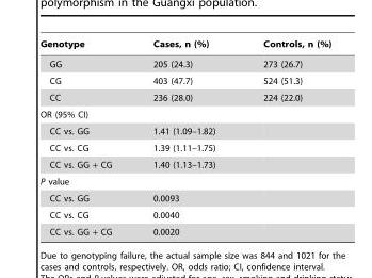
<table><thead><tr><td>Genotype</td><td>Cases, n (%)</td><td>Controls, n (%)</td></tr></thead><tbody><tr><td>GG</td><td>205 (24.3)</td><td>273 (26.7)</td></tr><tr><td>CG</td><td>403 (47.7)</td><td>524 (51.3)</td></tr><tr><td>CC</td><td>236 (28.0)</td><td>224 (22.0)</td></tr><tr><td colspan="3">OR (95% CI)</td></tr><tr><td>CC vs. GG</td><td>1.41 (1.09–1.82)</td><td></td></tr><tr><td>CC vs. CG</td><td>1.39 (1.11–1.75)</td><td></td></tr><tr><td>CC vs. GG + CG</td><td>1.40 (1.13–1.73)</td><td></td></tr><tr><td colspan="3">P value</td></tr><tr><td>CC vs. GG</td><td>0.0093</td><td></td></tr><tr><td>CC vs. CG</td><td>0.0040</td><td></td></tr><tr><td>CC vs. GG + CG</td><td>0.0020</td><td></td></tr></tbody></table>